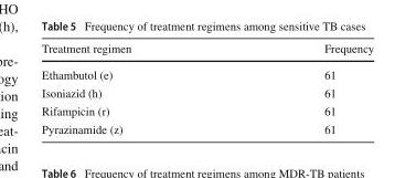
<table><thead><tr><td>Treatment regimen</td><td>Frequency</td></tr></thead><tbody><tr><td>Ethambutol (e)</td><td>61</td></tr><tr><td>Isoniazid (h)</td><td>61</td></tr><tr><td>Rifampicin (r)</td><td>61</td></tr><tr><td>Pyrazinamide (z)</td><td>61</td></tr></tbody></table>